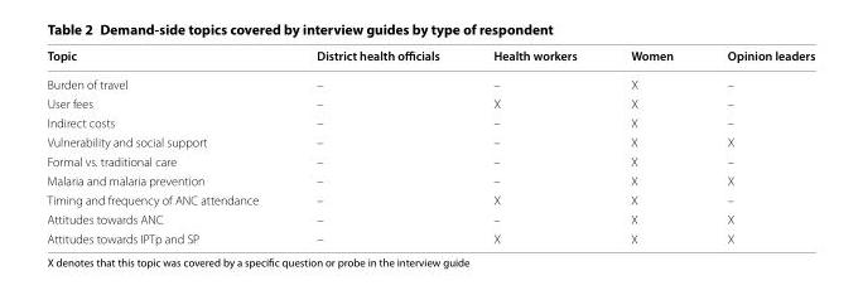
<table><thead><tr><td>Topic</td><td>District health officials</td><td>Health workers</td><td>Women</td><td>Opinion leaders</td></tr></thead><tbody><tr><td>Burden of travel</td><td>–</td><td>–</td><td>X</td><td>–</td></tr><tr><td>User fees</td><td>–</td><td>X</td><td>X</td><td>–</td></tr><tr><td>Indirect costs</td><td>–</td><td>–</td><td>X</td><td>–</td></tr><tr><td>Vulnerability and social support</td><td>–</td><td>–</td><td>X</td><td>X</td></tr><tr><td>Formal vs. traditional care</td><td>–</td><td>–</td><td>X</td><td>–</td></tr><tr><td>Malaria and malaria prevention</td><td>–</td><td>–</td><td>X</td><td>X</td></tr><tr><td>Timing and frequency of ANC attendance</td><td>–</td><td>X</td><td>X</td><td>–</td></tr><tr><td>Attitudes towards ANC</td><td>–</td><td>–</td><td>X</td><td>X</td></tr><tr><td>Attitudes towards IPTp and SP</td><td>–</td><td>X</td><td>X</td><td>X</td></tr></tbody></table>